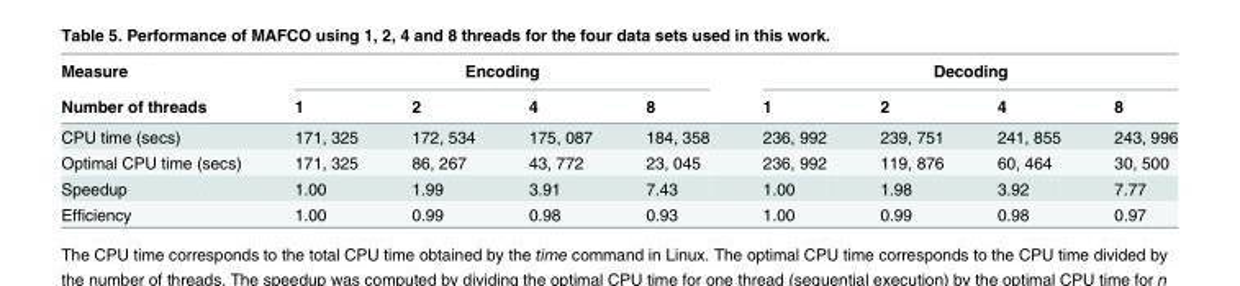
<table><thead><tr><td rowspan="2">Measure Number of threads</td><td colspan="4">Encoding</td><td colspan="4">Decoding</td></tr><tr><td>1</td><td>2</td><td>4</td><td>8</td><td>1</td><td>2</td><td>4</td><td>8</td></tr></thead><tbody><tr><td>CPU time (secs)</td><td>171, 325</td><td>172, 534</td><td>175, 087</td><td>184, 358</td><td>236, 992</td><td>239, 751</td><td>241, 855</td><td>243, 996</td></tr><tr><td>Optimal CPU time (secs)</td><td>171, 325</td><td>86, 267</td><td>43, 772</td><td>23, 045</td><td>236, 992</td><td>119, 876</td><td>60, 464</td><td>30, 500</td></tr><tr><td>Speedup</td><td>1.00</td><td>1.99</td><td>3.91</td><td>7.43</td><td>1.00</td><td>1.98</td><td>3.92</td><td>7.77</td></tr><tr><td>Efficiency</td><td>1.00</td><td>0.99</td><td>0.98</td><td>0.93</td><td>1.00</td><td>0.99</td><td>0.98</td><td>0.97</td></tr></tbody></table>